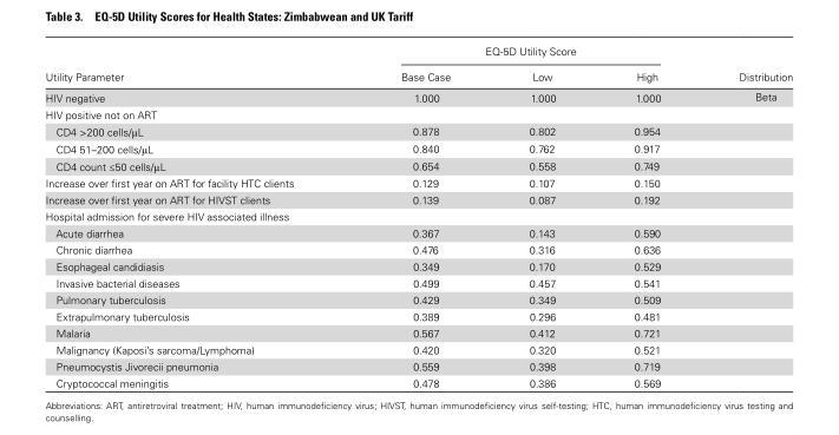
<table><thead><tr><td rowspan="2">Utility Parameter</td><td colspan="3">EQ-5D Utility Score</td><td rowspan="2">Distribution</td></tr><tr><td>Base Case</td><td>Low</td><td>High</td></tr></thead><tbody><tr><td>HIV negative</td><td>1.000</td><td>1.000</td><td>1.000</td><td>Beta</td></tr><tr><td colspan="5">HIV positive not on ART</td></tr><tr><td>CD4 &gt;200 cells/μL</td><td>0.878</td><td>0.802</td><td>0.954</td><td></td></tr><tr><td>CD4 51–200 cells/μL</td><td>0.840</td><td>0.762</td><td>0.917</td><td></td></tr><tr><td>CD4 count ≤50 cells/μL</td><td>0.654</td><td>0.558</td><td>0.749</td><td></td></tr><tr><td>Increase over first year on ART for facility HTC clients</td><td>0.129</td><td>0.107</td><td>0.150</td><td></td></tr><tr><td>Increase over first year on ART for HIVST clients</td><td>0.139</td><td>0.087</td><td>0.192</td><td></td></tr><tr><td colspan="5">Hospital admission for severe HIV associated illness</td></tr><tr><td>Acute diarrhea</td><td>0.367</td><td>0.143</td><td>0.590</td><td></td></tr><tr><td>Chronic diarrhea</td><td>0.476</td><td>0.316</td><td>0.636</td><td></td></tr><tr><td>Esophageal candidiasis</td><td>0.349</td><td>0.170</td><td>0.529</td><td></td></tr><tr><td>Invasive bacterial diseases</td><td>0.499</td><td>0.457</td><td>0.541</td><td></td></tr><tr><td>Pulmonary tuberculosis</td><td>0.429</td><td>0.349</td><td>0.509</td><td></td></tr><tr><td>Extrapulmonary tuberculosis</td><td>0.389</td><td>0.296</td><td>0.481</td><td></td></tr><tr><td>Malaria</td><td>0.567</td><td>0.412</td><td>0.721</td><td></td></tr><tr><td>Malignancy (Kaposi’s sarcoma/Lymphoma)</td><td>0.420</td><td>0.320</td><td>0.521</td><td></td></tr><tr><td>Pneumocystis Jivorecii pneumonia</td><td>0.559</td><td>0.398</td><td>0.719</td><td></td></tr><tr><td>Cryptococcal meningitis</td><td>0.478</td><td>0.386</td><td>0.569</td><td></td></tr></tbody></table>